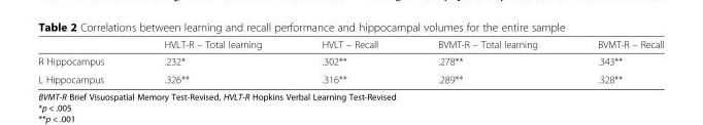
<table><thead><tr><td></td><td>HVLT-R – Total learning</td><td>HVLT – Recall</td><td>BVMT-R – Total learning</td><td>BVMT-R – Recall</td></tr></thead><tbody><tr><td>R Hippocampus</td><td>.232*</td><td>.302**</td><td>.278**</td><td>.343**</td></tr><tr><td>L Hippocampus</td><td>.326**</td><td>.316**</td><td>.289**</td><td>.328**</td></tr></tbody></table>